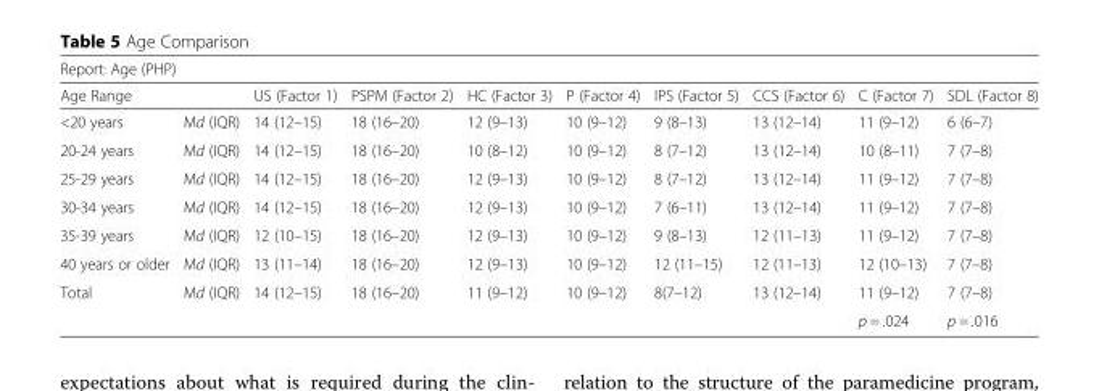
<table><thead><tr><td colspan="10">Report: Age (PHP)</td></tr><tr><td colspan="2">Age Range</td><td rowspan="2">US (Factor 1) 14 (12–15)</td><td rowspan="2">PSPM (Factor 2) 18 (16–20)</td><td rowspan="2">HC (Factor 3) 12 (9–13)</td><td rowspan="2">P (Factor 4) 10 (9–12)</td><td rowspan="2">IPS (Factor 5) 9 (8–13)</td><td rowspan="2">CCS (Factor 6) 13 (12–14)</td><td rowspan="2">C (Factor 7) 11 (9–12)</td><td rowspan="2">SDL (Factor 8) 6 (6–7)</td></tr><tr><td>&lt;20 years</td><td>Md (IQR)</td></tr></thead><tbody><tr><td>20-24 years</td><td>Md (IQR)</td><td>14 (12–15)</td><td>18 (16–20)</td><td>10 (8–12)</td><td>10 (9–12)</td><td>8 (7–12)</td><td>13 (12–14)</td><td>10 (8–11)</td><td>7 (7–8)</td></tr><tr><td>25-29 years</td><td>Md (IQR)</td><td>14 (12–15)</td><td>18 (16–20)</td><td>12 (9–13)</td><td>10 (9–12)</td><td>8 (7–12)</td><td>13 (12–14)</td><td>11 (9–12)</td><td>7 (7–8)</td></tr><tr><td>30-34 years</td><td>Md (IQR)</td><td>14 (12–15)</td><td>18 (16–20)</td><td>12 (9–13)</td><td>10 (9–12)</td><td>7 (6–11)</td><td>13 (12–14)</td><td>11 (9–12)</td><td>7 (7–8)</td></tr><tr><td>35-39 years</td><td>Md (IQR)</td><td>12 (10–15)</td><td>18 (16–20)</td><td>12 (9–13)</td><td>10 (9–12)</td><td>9 (8–13)</td><td>12 (11–13)</td><td>11 (9–12)</td><td>7 (7–8)</td></tr><tr><td>40 years or older</td><td>Md (IQR)</td><td>13 (11–14)</td><td>18 (16–20)</td><td>12 (9–13)</td><td>10 (9–12)</td><td>12 (11–15)</td><td>12 (11–13)</td><td>12 (10–13)</td><td>7 (7–8)</td></tr><tr><td rowspan="2">Total</td><td>Md (IQR)</td><td>14 (12–15)</td><td>18 (16–20)</td><td>11 (9–12)</td><td>10 (9–12)</td><td>8(7–12)</td><td>13 (12–14)</td><td>11 (9–12)</td><td>7 (7–8)</td></tr><tr><td></td><td></td><td></td><td></td><td></td><td></td><td></td><td>p = .024</td><td>p = .016</td></tr></tbody></table>